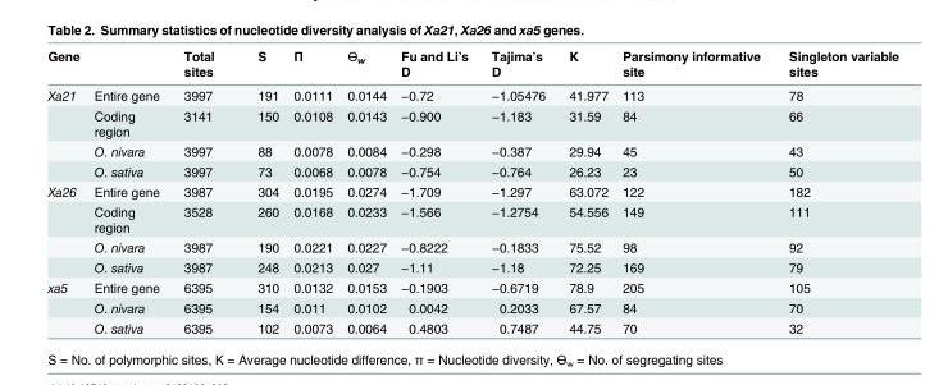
<table><thead><tr><td>Gene</td><td></td><td>Total sites</td><td>S</td><td>Π</td><td>Ө<sub>w</sub></td><td>Fu and Li’s D</td><td>Tajima’s D</td><td>K</td><td>Parsimony informative site</td><td>Singleton variable sites</td></tr></thead><tbody><tr><td rowspan="4">Xa21</td><td>Entire gene</td><td>3997</td><td>191</td><td>0.0111</td><td>0.0144</td><td>−0.72</td><td>−1.05476</td><td>41.977</td><td>113</td><td>78</td></tr><tr><td>Coding region</td><td>3141</td><td>150</td><td>0.0108</td><td>0.0143</td><td>−0.900</td><td>−1.183</td><td>31.59</td><td>84</td><td>66</td></tr><tr><td>O. nivara</td><td>3997</td><td>88</td><td>0.0078</td><td>0.0084</td><td>−0.298</td><td>−0.387</td><td>29.94</td><td>45</td><td>43</td></tr><tr><td>O. sativa</td><td>3997</td><td>73</td><td>0.0068</td><td>0.0078</td><td>−0.754</td><td>−0.764</td><td>26.23</td><td>23</td><td>50</td></tr><tr><td rowspan="4">Xa26</td><td>Entire gene</td><td>3987</td><td>304</td><td>0.0195</td><td>0.0274</td><td>−1.709</td><td>−1.297</td><td>63.072</td><td>122</td><td>182</td></tr><tr><td>Coding region</td><td>3528</td><td>260</td><td>0.0168</td><td>0.0233</td><td>−1.566</td><td>−1.2754</td><td>54.556</td><td>149</td><td>111</td></tr><tr><td>O. nivara</td><td>3987</td><td>190</td><td>0.0221</td><td>0.0227</td><td>−0.8222</td><td>−0.1833</td><td>75.52</td><td>98</td><td>92</td></tr><tr><td>O. sativa</td><td>3987</td><td>248</td><td>0.0213</td><td>0.027</td><td>−1.11</td><td>−1.18</td><td>72.25</td><td>169</td><td>79</td></tr><tr><td rowspan="3">xa5</td><td>Entire gene</td><td>6395</td><td>310</td><td>0.0132</td><td>0.0153</td><td>−0.1903</td><td>−0.6719</td><td>78.9</td><td>205</td><td>105</td></tr><tr><td>O. nivara</td><td>6395</td><td>154</td><td>0.011</td><td>0.0102</td><td>0.0042</td><td>0.2033</td><td>67.57</td><td>84</td><td>70</td></tr><tr><td>O. sativa</td><td>6395</td><td>102</td><td>0.0073</td><td>0.0064</td><td>0.4803</td><td>0.7487</td><td>44.75</td><td>70</td><td>32</td></tr></tbody></table>